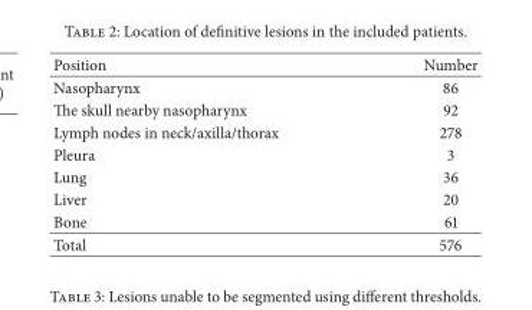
<table><thead><tr><td>Position</td><td>Number</td></tr></thead><tbody><tr><td>Nasopharynx</td><td>86</td></tr><tr><td>The skull nearby nasopharynx</td><td>92</td></tr><tr><td>Lymph nodes in neck/axilla/thorax</td><td>278</td></tr><tr><td>Pleura</td><td>3</td></tr><tr><td>Lung</td><td>36</td></tr><tr><td>Liver</td><td>20</td></tr><tr><td>Bone</td><td>61</td></tr><tr><td>Total</td><td>576</td></tr></tbody></table>